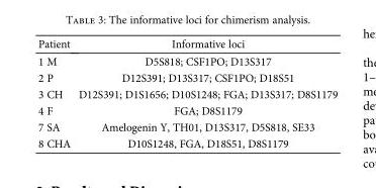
<table><thead><tr><td>Patient</td><td>Informative loci</td></tr></thead><tbody><tr><td>1 M</td><td>D5S818; CSF1PO; D13S317</td></tr><tr><td>2 P</td><td>D12S391; D13S317; CSF1PO; D18S51</td></tr><tr><td>3 CH</td><td>D12S391; D1S1656; D10S1248; FGA; D13S317; D8S1179</td></tr><tr><td>4 F</td><td>FGA; D8S1179</td></tr><tr><td>7 SA</td><td>Amelogenin Y, TH01, D13S317, D5S818, SE33</td></tr><tr><td>8 CHA</td><td>D10S1248, FGA, D18S51, D8S1179</td></tr></tbody></table>